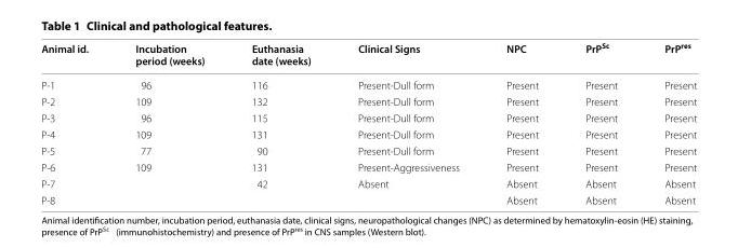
<table><thead><tr><td>Animal id.</td><td>Incubation period (weeks)</td><td>Euthanasia date (weeks)</td><td>Clinical Signs</td><td>NPC</td><td>PrP<sup>Sc</sup></td><td>PrP<sup>res</sup></td></tr></thead><tbody><tr><td>P-1</td><td>96</td><td>116</td><td>Present-Dull form</td><td>Present</td><td>Present</td><td>Present</td></tr><tr><td>P-2</td><td>109</td><td>132</td><td>Present-Dull form</td><td>Present</td><td>Present</td><td>Present</td></tr><tr><td>P-3</td><td>96</td><td>115</td><td>Present-Dull form</td><td>Present</td><td>Present</td><td>Present</td></tr><tr><td>P-4</td><td>109</td><td>131</td><td>Present-Dull form</td><td>Present</td><td>Present</td><td>Present</td></tr><tr><td>P-5</td><td>77</td><td>90</td><td>Present-Dull form</td><td>Present</td><td>Present</td><td>Present</td></tr><tr><td>P-6</td><td>109</td><td>131</td><td>Present-Aggressiveness</td><td>Present</td><td>Present</td><td>Present</td></tr><tr><td>P-7</td><td></td><td>42</td><td>Absent</td><td>Absent</td><td>Absent</td><td>Absent</td></tr><tr><td>P-8</td><td></td><td></td><td></td><td>Absent</td><td>Absent</td><td>Absent</td></tr></tbody></table>